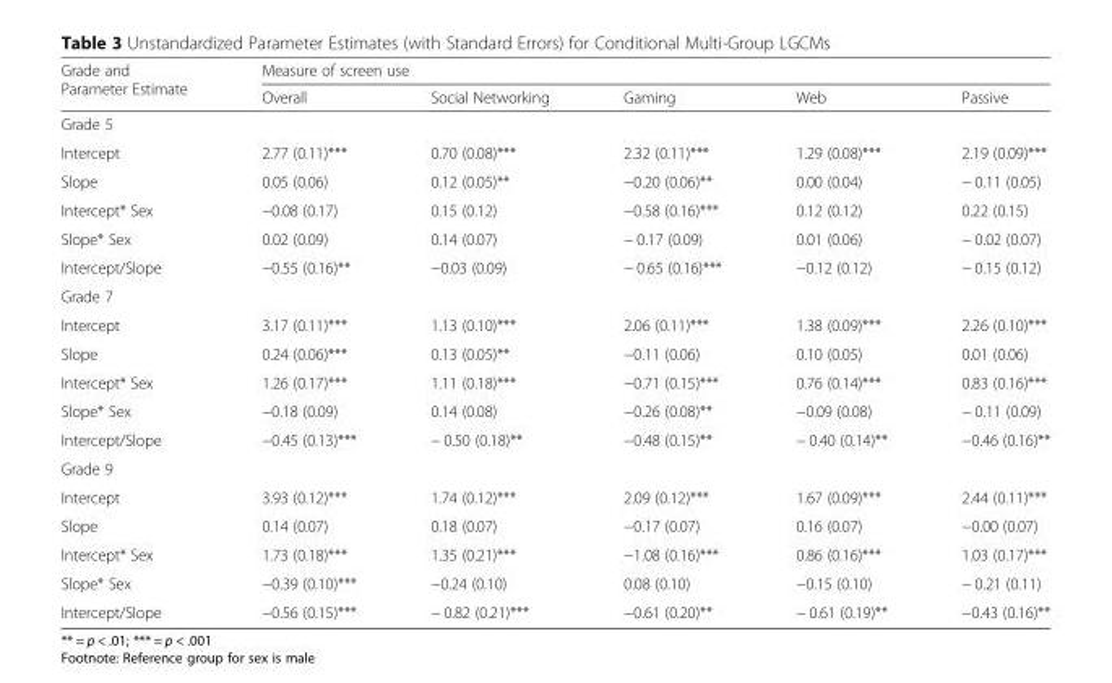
<table><thead><tr><td rowspan="2">Grade and Parameter Estimate</td><td colspan="5">Measure of screen use</td></tr><tr><td>Overall</td><td>Social Networking</td><td>Gaming</td><td>Web</td><td>Passive</td></tr></thead><tbody><tr><td colspan="6">Grade 5</td></tr><tr><td>Intercept</td><td>2.77 (0.11)***</td><td>0.70 (0.08)***</td><td>2.32 (0.11)***</td><td>1.29 (0.08)***</td><td>2.19 (0.09)***</td></tr><tr><td>Slope</td><td>0.05 (0.06)</td><td>0.12 (0.05)**</td><td>−0.20 (0.06)**</td><td>0.00 (0.04)</td><td>− 0.11 (0.05)</td></tr><tr><td>Intercept* Sex</td><td>−0.08 (0.17)</td><td>0.15 (0.12)</td><td>−0.58 (0.16)***</td><td>0.12 (0.12)</td><td>0.22 (0.15)</td></tr><tr><td>Slope* Sex</td><td>0.02 (0.09)</td><td>0.14 (0.07)</td><td>− 0.17 (0.09)</td><td>0.01 (0.06)</td><td>− 0.02 (0.07)</td></tr><tr><td>Intercept/Slope</td><td>−0.55 (0.16)**</td><td>−0.03 (0.09)</td><td>− 0.65 (0.16)***</td><td>−0.12 (0.12)</td><td>− 0.15 (0.12)</td></tr><tr><td colspan="6">Grade 7</td></tr><tr><td>Intercept</td><td>3.17 (0.11)***</td><td>1.13 (0.10)***</td><td>2.06 (0.11)***</td><td>1.38 (0.09)***</td><td>2.26 (0.10)***</td></tr><tr><td>Slope</td><td>0.24 (0.06)***</td><td>0.13 (0.05)**</td><td>−0.11 (0.06)</td><td>0.10 (0.05)</td><td>0.01 (0.06)</td></tr><tr><td>Intercept* Sex</td><td>1.26 (0.17)***</td><td>1.11 (0.18)***</td><td>−0.71 (0.15)***</td><td>0.76 (0.14)***</td><td>0.83 (0.16)***</td></tr><tr><td>Slope* Sex</td><td>−0.18 (0.09)</td><td>0.14 (0.08)</td><td>−0.26 (0.08)**</td><td>−0.09 (0.08)</td><td>− 0.11 (0.09)</td></tr><tr><td>Intercept/Slope</td><td>−0.45 (0.13)***</td><td>− 0.50 (0.18)**</td><td>−0.48 (0.15)**</td><td>− 0.40 (0.14)**</td><td>−0.46 (0.16)**</td></tr><tr><td colspan="6">Grade 9</td></tr><tr><td>Intercept</td><td>3.93 (0.12)***</td><td>1.74 (0.12)***</td><td>2.09 (0.12)***</td><td>1.67 (0.09)***</td><td>2.44 (0.11)***</td></tr><tr><td>Slope</td><td>0.14 (0.07)</td><td>0.18 (0.07)</td><td>−0.17 (0.07)</td><td>0.16 (0.07)</td><td>−0.00 (0.07)</td></tr><tr><td>Intercept* Sex</td><td>1.73 (0.18)***</td><td>1.35 (0.21)***</td><td>−1.08 (0.16)***</td><td>0.86 (0.16)***</td><td>1.03 (0.17)***</td></tr><tr><td>Slope* Sex</td><td>−0.39 (0.10)***</td><td>−0.24 (0.10)</td><td>0.08 (0.10)</td><td>−0.15 (0.10)</td><td>− 0.21 (0.11)</td></tr><tr><td>Intercept/Slope</td><td>−0.56 (0.15)***</td><td>− 0.82 (0.21)***</td><td>−0.61 (0.20)**</td><td>− 0.61 (0.19)**</td><td>−0.43 (0.16)**</td></tr></tbody></table>